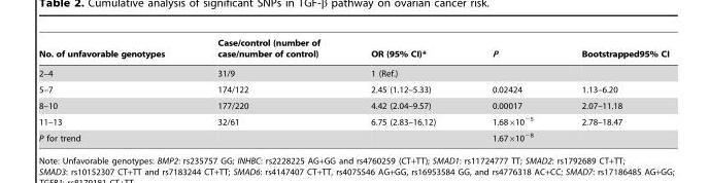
<table><thead><tr><td>No. of unfavorable genotypes</td><td>Case/control (number of case/number of control)</td><td>OR (95% CI)*</td><td>P</td><td>Bootstrapped95% CI</td></tr></thead><tbody><tr><td>2–4</td><td>31/9</td><td>1 (Ref.)</td><td></td><td></td></tr><tr><td>5–7</td><td>174/122</td><td>2.45 (1.12–5.33)</td><td>0.02424</td><td>1.13–6.20</td></tr><tr><td>8–10</td><td>177/220</td><td>4.42 (2.04–9.57)</td><td>0.00017</td><td>2.07–11.18</td></tr><tr><td>11–13</td><td>32/61</td><td>6.75 (2.83–16.12)</td><td>1.68×10<sup>−5</sup></td><td>2.78–18.47</td></tr><tr><td>P for trend</td><td></td><td></td><td>1.67×10<sup>−8</sup></td><td></td></tr></tbody></table>